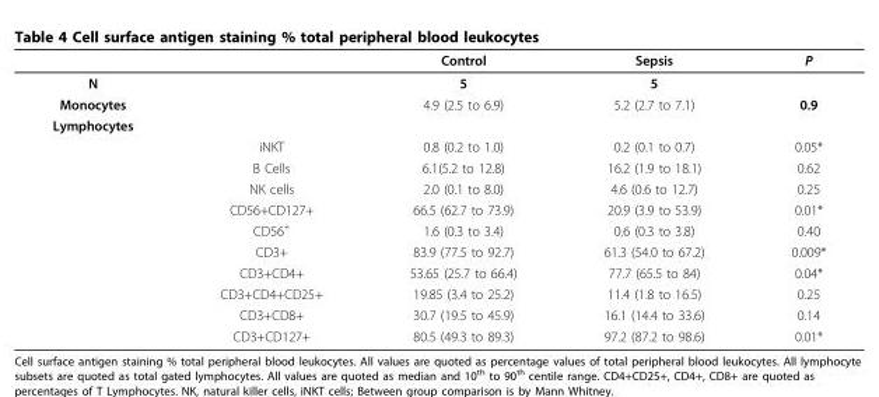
<table><thead><tr><td></td><td></td><td>Control</td><td>Sepsis</td><td>P</td></tr></thead><tbody><tr><td>N</td><td></td><td>5</td><td>5</td><td></td></tr><tr><td>Monocytes</td><td></td><td>4.9 (2.5 to 6.9)</td><td>5.2 (2.7 to 7.1)</td><td>0.9</td></tr><tr><td colspan="5">Lymphocytes</td></tr><tr><td></td><td>iNKT</td><td>0.8 (0.2 to 1.0)</td><td>0.2 (0.1 to 0.7)</td><td>0.05*</td></tr><tr><td></td><td>B Cells</td><td>6.1(5.2 to 12.8)</td><td>16.2 (1.9 to 18.1)</td><td>0.62</td></tr><tr><td></td><td>NK cells</td><td>2.0 (0.1 to 8.0)</td><td>4.6 (0.6 to 12.7)</td><td>0.25</td></tr><tr><td></td><td>CD56+CD127+</td><td>66.5 (62.7 to 73.9)</td><td>20.9 (3.9 to 53.9)</td><td>0.01*</td></tr><tr><td></td><td>CD56<sup>+</sup></td><td>1.6 (0.3 to 3.4)</td><td>0.6 (0.3 to 3.8)</td><td>0.40</td></tr><tr><td></td><td>CD3+</td><td>83.9 (77.5 to 92.7)</td><td>61.3 (54.0 to 67.2)</td><td>0.009*</td></tr><tr><td></td><td>CD3+CD4+</td><td>53.65 (25.7 to 66.4)</td><td>77.7 (65.5 to 84)</td><td>0.04*</td></tr><tr><td></td><td>CD3+CD4+CD25+</td><td>19.85 (3.4 to 25.2)</td><td>11.4 (1.8 to 16.5)</td><td>0.25</td></tr><tr><td></td><td>CD3+CD8+</td><td>30.7 (19.5 to 45.9)</td><td>16.1 (14.4 to 33.6)</td><td>0.14</td></tr><tr><td></td><td>CD3+CD127+</td><td>80.5 (49.3 to 89.3)</td><td>97.2 (87.2 to 98.6)</td><td>0.01*</td></tr></tbody></table>